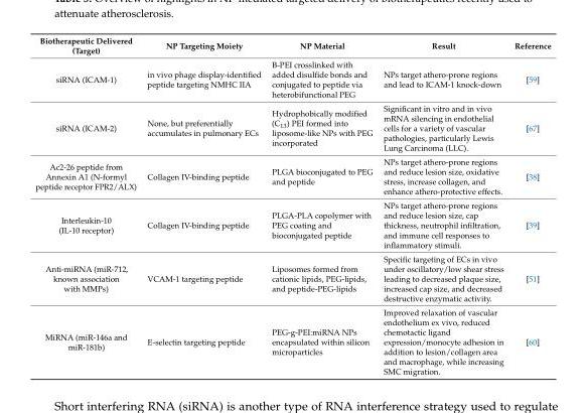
<table><thead><tr><td>Biotherapeutic Delivered (Target)</td><td>NP Targeting Moiety</td><td>NP Material</td><td>Result</td><td>Reference</td></tr></thead><tbody><tr><td>siRNA (ICAM-1)</td><td>in vivo phage display-identified peptide targeting NMHC IIA</td><td>B-PEI crosslinked with added disulfide bonds and conjugated to peptide via heterobifunctional PEG</td><td>NPs target athero-prone regions and lead to ICAM-1 knock-down</td><td>[59]</td></tr><tr><td>siRNA (ICAM-2)</td><td>None, but preferentially accumulates in pulmonary ECs</td><td>Hydrophobically modified (C<sub>13</sub>) PEI formed into liposome-like NPs with PEG incorporated</td><td>Significant in vitro and in vivo mRNA silencing in endothelial cells for a variety of vascular pathologies, particularly Lewis Lung Carcinoma (LLC).</td><td>[67]</td></tr><tr><td>Ac2-26 peptide from Annexin A1 (N-formyl peptide receptor FPR2/ALX)</td><td>Collagen IV-binding peptide</td><td>PLGA bioconjugated to PEG and peptide</td><td>NPs target athero-prone regions and reduce lesion size, oxidative stress, increase collagen, and enhance athero-protective effects.</td><td>[38]</td></tr><tr><td>Interleukin-10 (IL-10 receptor)</td><td>Collagen IV-binding peptide</td><td>PLGA-PLA copolymer with PEG coating and bioconjugated peptide</td><td>NPs target athero-prone regions and reduce lesion size, cap thickness, neutrophil infiltration, and immune cell responses to inflammatory stimuli.</td><td>[39]</td></tr><tr><td>Anti-miRNA (miR-712, known association with MMPs)</td><td>VCAM-1 targeting peptide</td><td>Liposomes formed from cationic lipids, PEG-lipids, and peptide-PEG-lipids</td><td>Specific targeting of ECs in vivo under oscillatory/low shear stress leading to decreased plaque size, increased cap size, and decreased destructive enzymatic activity.</td><td>[51]</td></tr><tr><td>MiRNA (miR-146a and miR-181b)</td><td>E-selectin targeting peptide</td><td>PEG-g-PEI:miRNA NPs encapsulated within silicon microparticles</td><td>Improved relaxation of vascular endothelium ex vivo, reduced chemotactic ligand expression/monocyte adhesion in addition to lesion/collagen area and macrophage, while increasing SMC migration.</td><td>[60]</td></tr></tbody></table>